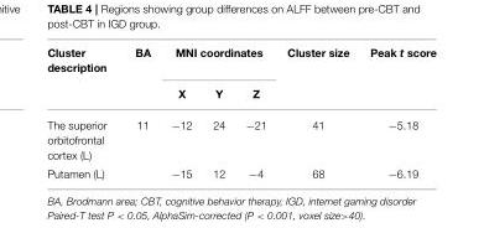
<table><thead><tr><td rowspan="2">Cluster description</td><td rowspan="2">BA</td><td colspan="3">MNI coordinates</td><td rowspan="2">Cluster size</td><td rowspan="2">Peak t score</td></tr><tr><td>X</td><td>Y</td><td>Z</td></tr></thead><tbody><tr><td>The superior orbitofrontal cortex (L)</td><td>11</td><td>−12</td><td>24</td><td>−21</td><td>41</td><td>−5.18</td></tr><tr><td>Putamen (L)</td><td></td><td>−15</td><td>12</td><td>−4</td><td>68</td><td>−6.19</td></tr></tbody></table>